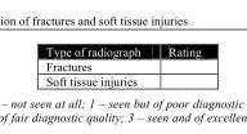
<table><thead><tr><td>Type of radiograph</td><td>Rating</td></tr></thead><tbody><tr><td colspan="2">Fractures</td></tr><tr><td>Soft tissue injuries</td><td></td></tr></tbody></table>